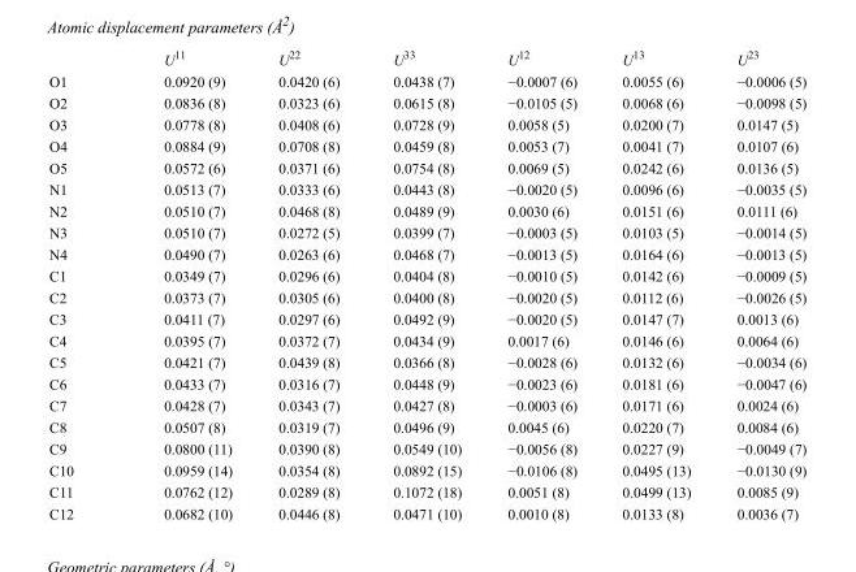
<table><thead><tr><td></td><td>U<sup>11</sup></td><td>U<sup>22</sup></td><td>U<sup>33</sup></td><td>U<sup>12</sup></td><td>U<sup>13</sup></td><td>U<sup>23</sup></td></tr></thead><tbody><tr><td>O1</td><td>0.0920 (9)</td><td>0.0420 (6)</td><td>0.0438 (7)</td><td>−0.0007 (6)</td><td>0.0055 (6)</td><td>−0.0006 (5)</td></tr><tr><td>O2</td><td>0.0836 (8)</td><td>0.0323 (6)</td><td>0.0615 (8)</td><td>−0.0105 (5)</td><td>0.0068 (6)</td><td>−0.0098 (5)</td></tr><tr><td>O3</td><td>0.0778 (8)</td><td>0.0408 (6)</td><td>0.0728 (9)</td><td>0.0058 (5)</td><td>0.0200 (7)</td><td>0.0147 (5)</td></tr><tr><td>O4</td><td>0.0884 (9)</td><td>0.0708 (8)</td><td>0.0459 (8)</td><td>0.0053 (7)</td><td>0.0041 (7)</td><td>0.0107 (6)</td></tr><tr><td>O5</td><td>0.0572 (6)</td><td>0.0371 (6)</td><td>0.0754 (8)</td><td>0.0069 (5)</td><td>0.0242 (6)</td><td>0.0136 (5)</td></tr><tr><td>N1</td><td>0.0513 (7)</td><td>0.0333 (6)</td><td>0.0443 (8)</td><td>−0.0020 (5)</td><td>0.0096 (6)</td><td>−0.0035 (5)</td></tr><tr><td>N2</td><td>0.0510 (7)</td><td>0.0468 (8)</td><td>0.0489 (9)</td><td>0.0030 (6)</td><td>0.0151 (6)</td><td>0.0111 (6)</td></tr><tr><td>N3</td><td>0.0510 (7)</td><td>0.0272 (5)</td><td>0.0399 (7)</td><td>−0.0003 (5)</td><td>0.0103 (5)</td><td>−0.0014 (5)</td></tr><tr><td>N4</td><td>0.0490 (7)</td><td>0.0263 (6)</td><td>0.0468 (7)</td><td>−0.0013 (5)</td><td>0.0164 (6)</td><td>−0.0013 (5)</td></tr><tr><td>C1</td><td>0.0349 (7)</td><td>0.0296 (6)</td><td>0.0404 (8)</td><td>−0.0010 (5)</td><td>0.0142 (6)</td><td>−0.0009 (5)</td></tr><tr><td>C2</td><td>0.0373 (7)</td><td>0.0305 (6)</td><td>0.0400 (8)</td><td>−0.0020 (5)</td><td>0.0112 (6)</td><td>−0.0026 (5)</td></tr><tr><td>C3</td><td>0.0411 (7)</td><td>0.0297 (6)</td><td>0.0492 (9)</td><td>−0.0020 (5)</td><td>0.0147 (7)</td><td>0.0013 (6)</td></tr><tr><td>C4</td><td>0.0395 (7)</td><td>0.0372 (7)</td><td>0.0434 (9)</td><td>0.0017 (6)</td><td>0.0146 (6)</td><td>0.0064 (6)</td></tr><tr><td>C5</td><td>0.0421 (7)</td><td>0.0439 (8)</td><td>0.0366 (8)</td><td>−0.0028 (6)</td><td>0.0132 (6)</td><td>−0.0034 (6)</td></tr><tr><td>C6</td><td>0.0433 (7)</td><td>0.0316 (7)</td><td>0.0448 (9)</td><td>−0.0023 (6)</td><td>0.0181 (6)</td><td>−0.0047 (6)</td></tr><tr><td>C7</td><td>0.0428 (7)</td><td>0.0343 (7)</td><td>0.0427 (8)</td><td>−0.0003 (6)</td><td>0.0171 (6)</td><td>0.0024 (6)</td></tr><tr><td>C8</td><td>0.0507 (8)</td><td>0.0319 (7)</td><td>0.0496 (9)</td><td>0.0045 (6)</td><td>0.0220 (7)</td><td>0.0084 (6)</td></tr><tr><td>C9</td><td>0.0800 (11)</td><td>0.0390 (8)</td><td>0.0549 (10)</td><td>−0.0056 (8)</td><td>0.0227 (9)</td><td>−0.0049 (7)</td></tr><tr><td>C10</td><td>0.0959 (14)</td><td>0.0354 (8)</td><td>0.0892 (15)</td><td>−0.0106 (8)</td><td>0.0495 (13)</td><td>−0.0130 (9)</td></tr><tr><td>C11</td><td>0.0762 (12)</td><td>0.0289 (8)</td><td>0.1072 (18)</td><td>0.0051 (8)</td><td>0.0499 (13)</td><td>0.0085 (9)</td></tr><tr><td>C12</td><td>0.0682 (10)</td><td>0.0446 (8)</td><td>0.0471 (10)</td><td>0.0010 (8)</td><td>0.0133 (8)</td><td>0.0036 (7)</td></tr></tbody></table>